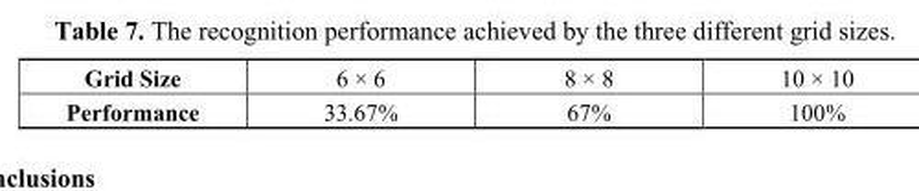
<table><tbody><tr><td>Grid Size</td><td>6 × 6</td><td>8 × 8</td><td>10 × 10</td></tr><tr><td>Performance</td><td>33.67%</td><td>67%</td><td>100%</td></tr></tbody></table>